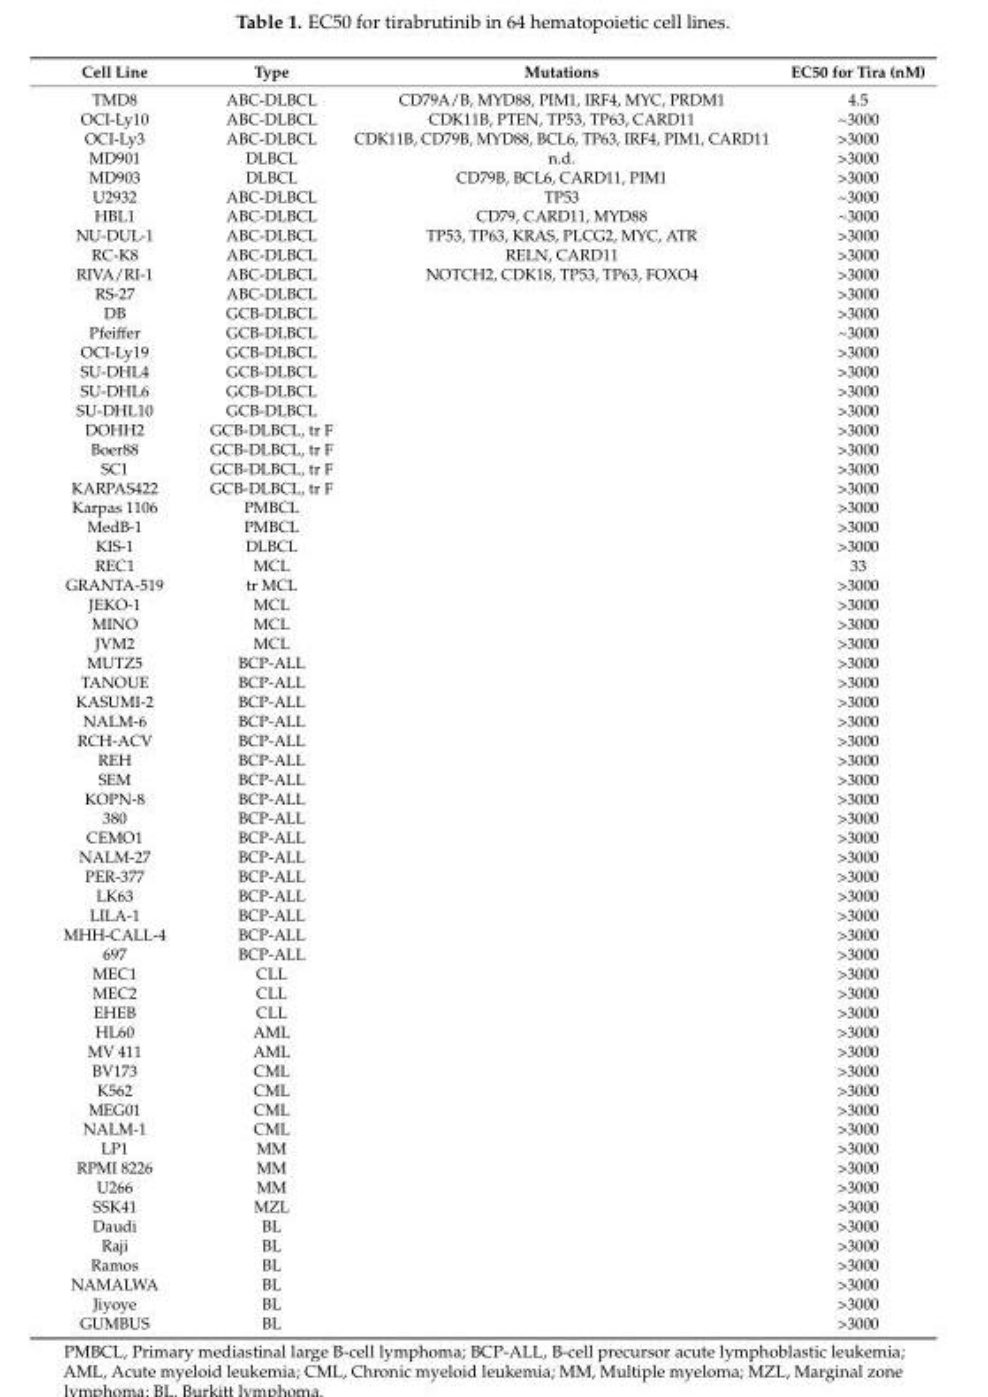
<table><thead><tr><td>Cell Line</td><td>Type</td><td>Mutations</td><td>EC50 for Tira (nM)</td></tr></thead><tbody><tr><td>TMD8</td><td>ABC-DLBCL</td><td>CD79A/B, MYD88, PIM1, IRF4, MYC, PRDM1</td><td>4.5</td></tr><tr><td>OCI-Ly10</td><td>ABC-DLBCL</td><td>CDK11B, PTEN, TP53, TP63, CARD11</td><td>~3000</td></tr><tr><td>OCI-Ly3</td><td>ABC-DLBCL</td><td>CDK11B, CD79B, MYD88, BCL6, TP63, IRF4, PIM1, CARD11</td><td>&gt;3000</td></tr><tr><td>MD901</td><td>DLBCL</td><td>n.d.</td><td>&gt;3000</td></tr><tr><td>MD903</td><td>DLBCL</td><td>CD79B, BCL6, CARD11, PIM1</td><td>&gt;3000</td></tr><tr><td>U2932</td><td>ABC-DLBCL</td><td>TP53</td><td>~3000</td></tr><tr><td>HBL1</td><td>ABC-DLBCL</td><td>CD79, CARD11, MYD88</td><td>~3000</td></tr><tr><td>NU-DUL-1</td><td>ABC-DLBCL</td><td>TP53, TP63, KRAS, PLCG2, MYC, ATR</td><td>&gt;3000</td></tr><tr><td>RC-K8</td><td>ABC-DLBCL</td><td>RELN, CARD11</td><td>&gt;3000</td></tr><tr><td>RIVA/RI-1</td><td>ABC-DLBCL</td><td>NOTCH2, CDK18, TP53, TP63, FOXO4</td><td>&gt;3000</td></tr><tr><td>RS-27</td><td>ABC-DLBCL</td><td></td><td>&gt;3000</td></tr><tr><td>DB</td><td>GCB-DLBCL</td><td></td><td>&gt;3000</td></tr><tr><td>Pfeiffer</td><td>GCB-DLBCL</td><td></td><td>~3000</td></tr><tr><td>OCI-Ly19</td><td>GCB-DLBCL</td><td></td><td>&gt;3000</td></tr><tr><td>SU-DHL4</td><td>GCB-DLBCL</td><td></td><td>&gt;3000</td></tr><tr><td>SU-DHL6</td><td>GCB-DLBCL</td><td></td><td>&gt;3000</td></tr><tr><td>SU-DHL10</td><td>GCB-DLBCL</td><td></td><td>&gt;3000</td></tr><tr><td>DOHH2</td><td>GCB-DLBCL, tr F</td><td></td><td>&gt;3000</td></tr><tr><td>Boer88</td><td>GCB-DLBCL, tr F</td><td></td><td>&gt;3000</td></tr><tr><td>SC1</td><td>GCB-DLBCL, tr F</td><td></td><td>&gt;3000</td></tr><tr><td>KARPAS422</td><td>GCB-DLBCL, tr F</td><td></td><td>&gt;3000</td></tr><tr><td>Karpas 1106</td><td>PMBCL</td><td></td><td>&gt;3000</td></tr><tr><td>MedB-1</td><td>PMBCL</td><td></td><td>&gt;3000</td></tr><tr><td>KIS-1</td><td>DLBCL</td><td></td><td>&gt;3000</td></tr><tr><td>REC1</td><td>MCL</td><td></td><td>33</td></tr><tr><td>GRANTA-519</td><td>tr MCL</td><td></td><td>&gt;3000</td></tr><tr><td>JEKO-1</td><td>MCL</td><td></td><td>&gt;3000</td></tr><tr><td>MINO</td><td>MCL</td><td></td><td>&gt;3000</td></tr><tr><td>JVM2</td><td>MCL</td><td></td><td>&gt;3000</td></tr><tr><td>MUTZ5</td><td>BCP-ALL</td><td></td><td>&gt;3000</td></tr><tr><td>TANOUE</td><td>BCP-ALL</td><td></td><td>&gt;3000</td></tr><tr><td>KASUMI-2</td><td>BCP-ALL</td><td></td><td>&gt;3000</td></tr><tr><td>NALM-6</td><td>BCP-ALL</td><td></td><td>&gt;3000</td></tr><tr><td>RCH-ACV</td><td>BCP-ALL</td><td></td><td>&gt;3000</td></tr><tr><td>REH</td><td>BCP-ALL</td><td></td><td>&gt;3000</td></tr><tr><td>SEM</td><td>BCP-ALL</td><td></td><td>&gt;3000</td></tr><tr><td>KOPN-8</td><td>BCP-ALL</td><td></td><td>&gt;3000</td></tr><tr><td>380</td><td>BCP-ALL</td><td></td><td>&gt;3000</td></tr><tr><td>CEMO1</td><td>BCP-ALL</td><td></td><td>&gt;3000</td></tr><tr><td>NALM-27</td><td>BCP-ALL</td><td></td><td>&gt;3000</td></tr><tr><td>PER-377</td><td>BCP-ALL</td><td></td><td>&gt;3000</td></tr><tr><td>LK63</td><td>BCP-ALL</td><td></td><td>&gt;3000</td></tr><tr><td>LILA-1</td><td>BCP-ALL</td><td></td><td>&gt;3000</td></tr><tr><td>MHH-CALL-4</td><td>BCP-ALL</td><td></td><td>&gt;3000</td></tr><tr><td>697</td><td>BCP-ALL</td><td></td><td>&gt;3000</td></tr><tr><td>MEC1</td><td>CLL</td><td></td><td>&gt;3000</td></tr><tr><td>MEC2</td><td>CLL</td><td></td><td>&gt;3000</td></tr><tr><td>EHEB</td><td>CLL</td><td></td><td>&gt;3000</td></tr><tr><td>HL60</td><td>AML</td><td></td><td>&gt;3000</td></tr><tr><td>MV 411</td><td>AML</td><td></td><td>&gt;3000</td></tr><tr><td>BV173</td><td>CML</td><td></td><td>&gt;3000</td></tr><tr><td>K562</td><td>CML</td><td></td><td>&gt;3000</td></tr><tr><td>MEG01</td><td>CML</td><td></td><td>&gt;3000</td></tr><tr><td>NALM-1</td><td>CML</td><td></td><td>&gt;3000</td></tr><tr><td>LP1</td><td>MM</td><td></td><td>&gt;3000</td></tr><tr><td>RPMI 8226</td><td>MM</td><td></td><td>&gt;3000</td></tr><tr><td>U266</td><td>MM</td><td></td><td>&gt;3000</td></tr><tr><td>SSK41</td><td>MZL</td><td></td><td>&gt;3000</td></tr><tr><td>Daudi</td><td>BL</td><td></td><td>&gt;3000</td></tr><tr><td>Raji</td><td>BL</td><td></td><td>&gt;3000</td></tr><tr><td>Ramos</td><td>BL</td><td></td><td>&gt;3000</td></tr><tr><td>NAMALWA</td><td>BL</td><td></td><td>&gt;3000</td></tr><tr><td>Jiyoye</td><td>BL</td><td></td><td>&gt;3000</td></tr><tr><td>GUMBUS</td><td>BL</td><td></td><td>&gt;3000</td></tr></tbody></table>